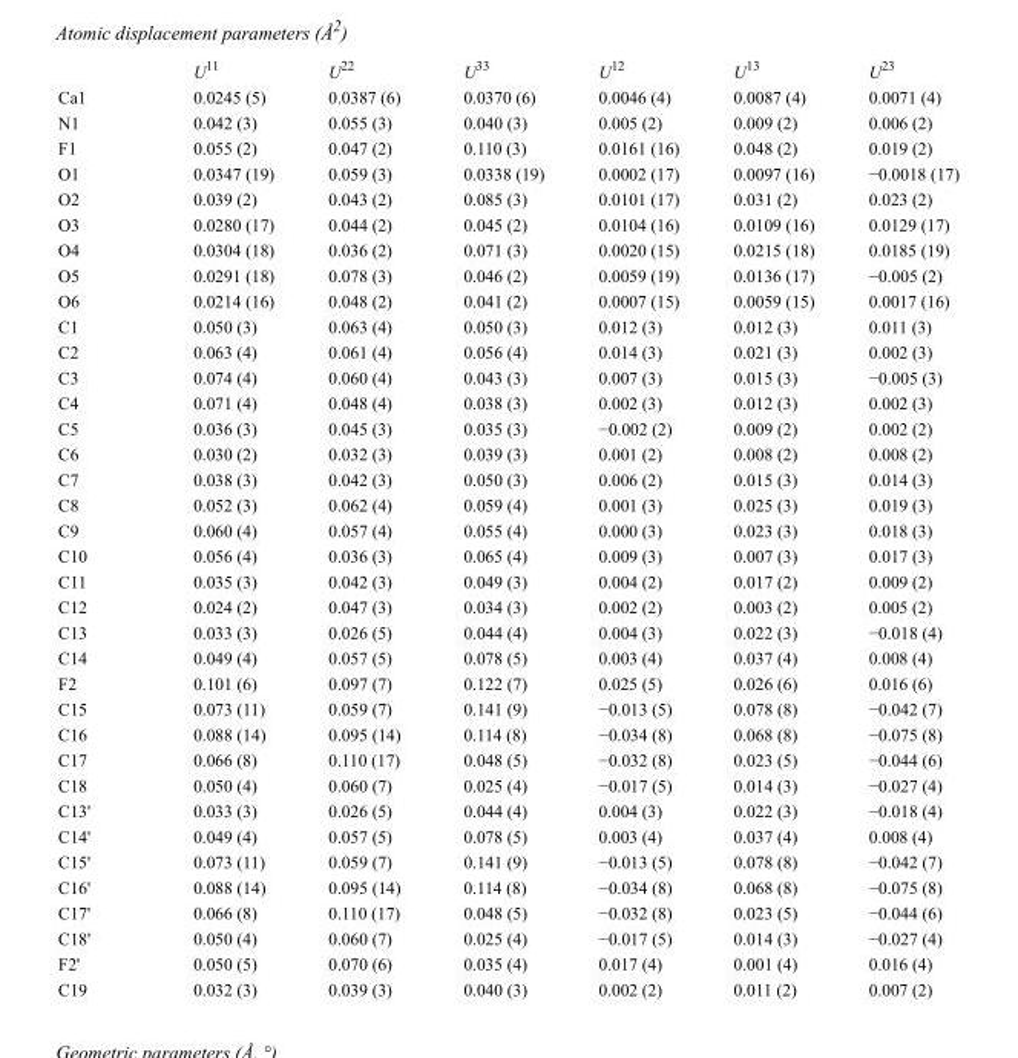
<table><thead><tr><td></td><td>U<sup>11</sup></td><td>U<sup>22</sup></td><td>U<sup>33</sup></td><td>U<sup>12</sup></td><td>U<sup>13</sup></td><td>U<sup>23</sup></td></tr></thead><tbody><tr><td>Ca1</td><td>0.0245 (5)</td><td>0.0387 (6)</td><td>0.0370 (6)</td><td>0.0046 (4)</td><td>0.0087 (4)</td><td>0.0071 (4)</td></tr><tr><td>N1</td><td>0.042 (3)</td><td>0.055 (3)</td><td>0.040 (3)</td><td>0.005 (2)</td><td>0.009 (2)</td><td>0.006 (2)</td></tr><tr><td>F1</td><td>0.055 (2)</td><td>0.047 (2)</td><td>0.110 (3)</td><td>0.0161 (16)</td><td>0.048 (2)</td><td>0.019 (2)</td></tr><tr><td>O1</td><td>0.0347 (19)</td><td>0.059 (3)</td><td>0.0338 (19)</td><td>0.0002 (17)</td><td>0.0097 (16)</td><td>−0.0018 (17)</td></tr><tr><td>O2</td><td>0.039 (2)</td><td>0.043 (2)</td><td>0.085 (3)</td><td>0.0101 (17)</td><td>0.031 (2)</td><td>0.023 (2)</td></tr><tr><td>O3</td><td>0.0280 (17)</td><td>0.044 (2)</td><td>0.045 (2)</td><td>0.0104 (16)</td><td>0.0109 (16)</td><td>0.0129 (17)</td></tr><tr><td>O4</td><td>0.0304 (18)</td><td>0.036 (2)</td><td>0.071 (3)</td><td>0.0020 (15)</td><td>0.0215 (18)</td><td>0.0185 (19)</td></tr><tr><td>O5</td><td>0.0291 (18)</td><td>0.078 (3)</td><td>0.046 (2)</td><td>0.0059 (19)</td><td>0.0136 (17)</td><td>−0.005 (2)</td></tr><tr><td>O6</td><td>0.0214 (16)</td><td>0.048 (2)</td><td>0.041 (2)</td><td>0.0007 (15)</td><td>0.0059 (15)</td><td>0.0017 (16)</td></tr><tr><td>C1</td><td>0.050 (3)</td><td>0.063 (4)</td><td>0.050 (3)</td><td>0.012 (3)</td><td>0.012 (3)</td><td>0.011 (3)</td></tr><tr><td>C2</td><td>0.063 (4)</td><td>0.061 (4)</td><td>0.056 (4)</td><td>0.014 (3)</td><td>0.021 (3)</td><td>0.002 (3)</td></tr><tr><td>C3</td><td>0.074 (4)</td><td>0.060 (4)</td><td>0.043 (3)</td><td>0.007 (3)</td><td>0.015 (3)</td><td>−0.005 (3)</td></tr><tr><td>C4</td><td>0.071 (4)</td><td>0.048 (4)</td><td>0.038 (3)</td><td>0.002 (3)</td><td>0.012 (3)</td><td>0.002 (3)</td></tr><tr><td>C5</td><td>0.036 (3)</td><td>0.045 (3)</td><td>0.035 (3)</td><td>−0.002 (2)</td><td>0.009 (2)</td><td>0.002 (2)</td></tr><tr><td>C6</td><td>0.030 (2)</td><td>0.032 (3)</td><td>0.039 (3)</td><td>0.001 (2)</td><td>0.008 (2)</td><td>0.008 (2)</td></tr><tr><td>C7</td><td>0.038 (3)</td><td>0.042 (3)</td><td>0.050 (3)</td><td>0.006 (2)</td><td>0.015 (3)</td><td>0.014 (3)</td></tr><tr><td>C8</td><td>0.052 (3)</td><td>0.062 (4)</td><td>0.059 (4)</td><td>0.001 (3)</td><td>0.025 (3)</td><td>0.019 (3)</td></tr><tr><td>C9</td><td>0.060 (4)</td><td>0.057 (4)</td><td>0.055 (4)</td><td>0.000 (3)</td><td>0.023 (3)</td><td>0.018 (3)</td></tr><tr><td>C10</td><td>0.056 (4)</td><td>0.036 (3)</td><td>0.065 (4)</td><td>0.009 (3)</td><td>0.007 (3)</td><td>0.017 (3)</td></tr><tr><td>C11</td><td>0.035 (3)</td><td>0.042 (3)</td><td>0.049 (3)</td><td>0.004 (2)</td><td>0.017 (2)</td><td>0.009 (2)</td></tr><tr><td>C12</td><td>0.024 (2)</td><td>0.047 (3)</td><td>0.034 (3)</td><td>0.002 (2)</td><td>0.003 (2)</td><td>0.005 (2)</td></tr><tr><td>C13</td><td>0.033 (3)</td><td>0.026 (5)</td><td>0.044 (4)</td><td>0.004 (3)</td><td>0.022 (3)</td><td>−0.018 (4)</td></tr><tr><td>C14</td><td>0.049 (4)</td><td>0.057 (5)</td><td>0.078 (5)</td><td>0.003 (4)</td><td>0.037 (4)</td><td>0.008 (4)</td></tr><tr><td>F2</td><td>0.101 (6)</td><td>0.097 (7)</td><td>0.122 (7)</td><td>0.025 (5)</td><td>0.026 (6)</td><td>0.016 (6)</td></tr><tr><td>C15</td><td>0.073 (11)</td><td>0.059 (7)</td><td>0.141 (9)</td><td>−0.013 (5)</td><td>0.078 (8)</td><td>−0.042 (7)</td></tr><tr><td>C16</td><td>0.088 (14)</td><td>0.095 (14)</td><td>0.114 (8)</td><td>−0.034 (8)</td><td>0.068 (8)</td><td>−0.075 (8)</td></tr><tr><td>C17</td><td>0.066 (8)</td><td>0.110 (17)</td><td>0.048 (5)</td><td>−0.032 (8)</td><td>0.023 (5)</td><td>−0.044 (6)</td></tr><tr><td>C18</td><td>0.050 (4)</td><td>0.060 (7)</td><td>0.025 (4)</td><td>−0.017 (5)</td><td>0.014 (3)</td><td>−0.027 (4)</td></tr><tr><td>C13&#x27;</td><td>0.033 (3)</td><td>0.026 (5)</td><td>0.044 (4)</td><td>0.004 (3)</td><td>0.022 (3)</td><td>−0.018 (4)</td></tr><tr><td>C14&#x27;</td><td>0.049 (4)</td><td>0.057 (5)</td><td>0.078 (5)</td><td>0.003 (4)</td><td>0.037 (4)</td><td>0.008 (4)</td></tr><tr><td>C15&#x27;</td><td>0.073 (11)</td><td>0.059 (7)</td><td>0.141 (9)</td><td>−0.013 (5)</td><td>0.078 (8)</td><td>−0.042 (7)</td></tr><tr><td>C16&#x27;</td><td>0.088 (14)</td><td>0.095 (14)</td><td>0.114 (8)</td><td>−0.034 (8)</td><td>0.068 (8)</td><td>−0.075 (8)</td></tr><tr><td>C17&#x27;</td><td>0.066 (8)</td><td>0.110 (17)</td><td>0.048 (5)</td><td>−0.032 (8)</td><td>0.023 (5)</td><td>−0.044 (6)</td></tr><tr><td>C18&#x27;</td><td>0.050 (4)</td><td>0.060 (7)</td><td>0.025 (4)</td><td>−0.017 (5)</td><td>0.014 (3)</td><td>−0.027 (4)</td></tr><tr><td>F2&#x27;</td><td>0.050 (5)</td><td>0.070 (6)</td><td>0.035 (4)</td><td>0.017 (4)</td><td>0.001 (4)</td><td>0.016 (4)</td></tr><tr><td>C19</td><td>0.032 (3)</td><td>0.039 (3)</td><td>0.040 (3)</td><td>0.002 (2)</td><td>0.011 (2)</td><td>0.007 (2)</td></tr></tbody></table>